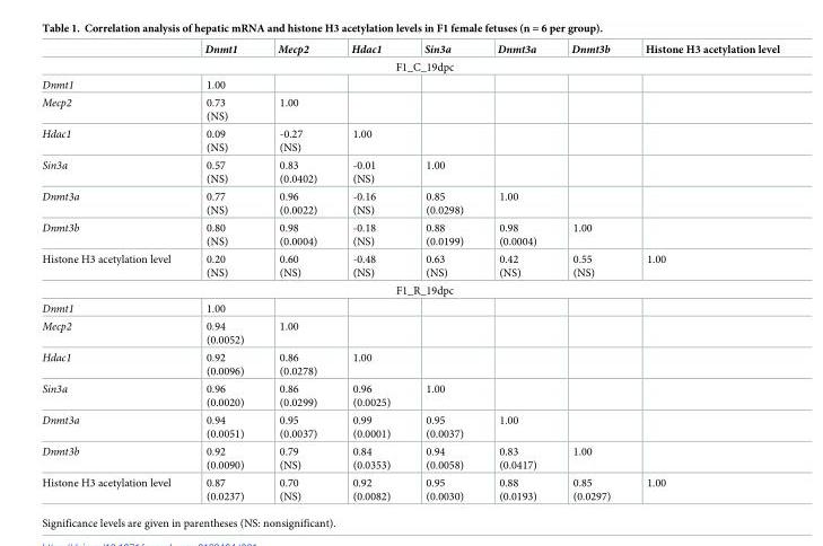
<table><thead><tr><td></td><td>Dnmt1</td><td>Mecp2</td><td>Hdac1</td><td>Sin3a</td><td>Dnmt3a</td><td>Dnmt3b</td><td>Histone H3 acetylation level</td></tr></thead><tbody><tr><td colspan="8">F1_C_19dpc</td></tr><tr><td>Dnmt1</td><td>1.00</td><td></td><td></td><td></td><td></td><td></td><td></td></tr><tr><td>Mecp2</td><td>0.73 (NS)</td><td>1.00</td><td></td><td></td><td></td><td></td><td></td></tr><tr><td>Hdac1</td><td>0.09 (NS)</td><td>-0.27 (NS)</td><td>1.00</td><td></td><td></td><td></td><td></td></tr><tr><td>Sin3a</td><td>0.57 (NS)</td><td>0.83 (0.0402)</td><td>-0.01 (NS)</td><td>1.00</td><td></td><td></td><td></td></tr><tr><td>Dnmt3a</td><td>0.77 (NS)</td><td>0.96 (0.0022)</td><td>-0.16 (NS)</td><td>0.85 (0.0298)</td><td>1.00</td><td></td><td></td></tr><tr><td>Dnmt3b</td><td>0.80 (NS)</td><td>0.98 (0.0004)</td><td>-0.18 (NS)</td><td>0.88 (0.0199)</td><td>0.98 (0.0004)</td><td>1.00</td><td></td></tr><tr><td>Histone H3 acetylation level</td><td>0.20 (NS)</td><td>0.60 (NS)</td><td>-0.48 (NS)</td><td>0.63 (NS)</td><td>0.42 (NS)</td><td>0.55 (NS)</td><td>1.00</td></tr><tr><td colspan="8">F1_R_19dpc</td></tr><tr><td>Dnmt1</td><td>1.00</td><td></td><td></td><td></td><td></td><td></td><td></td></tr><tr><td>Mecp2</td><td>0.94 (0.0052)</td><td>1.00</td><td></td><td></td><td></td><td></td><td></td></tr><tr><td>Hdac1</td><td>0.92 (0.0096)</td><td>0.86 (0.0278)</td><td>1.00</td><td></td><td></td><td></td><td></td></tr><tr><td>Sin3a</td><td>0.96 (0.0020)</td><td>0.86 (0.0299)</td><td>0.96 (0.0025)</td><td>1.00</td><td></td><td></td><td></td></tr><tr><td>Dnmt3a</td><td>0.94 (0.0051)</td><td>0.95 (0.0037)</td><td>0.99 (0.0001)</td><td>0.95 (0.0037)</td><td>1.00</td><td></td><td></td></tr><tr><td>Dnmt3b</td><td>0.92 (0.0090)</td><td>0.79 (NS)</td><td>0.84 (0.0353)</td><td>0.94 (0.0058)</td><td>0.83 (0.0417)</td><td>1.00</td><td></td></tr><tr><td>Histone H3 acetylation level</td><td>0.87 (0.0237)</td><td>0.70 (NS)</td><td>0.92 (0.0082)</td><td>0.95 (0.0030)</td><td>0.88 (0.0193)</td><td>0.85 (0.0297)</td><td>1.00</td></tr></tbody></table>